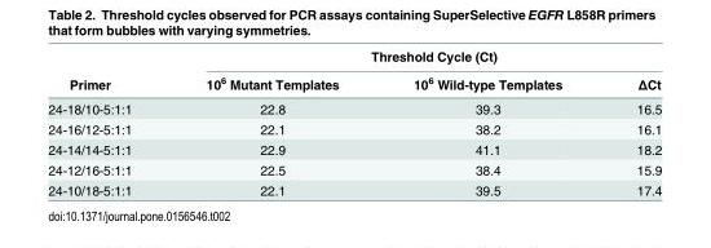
<table><thead><tr><td rowspan="2">Primer</td><td colspan="3">Threshold Cycle (Ct)</td></tr><tr><td>10<sup>6</sup> Mutant Templates</td><td>10<sup>6</sup> Wild-type Templates</td><td>ΔCt</td></tr></thead><tbody><tr><td>24-18/10-5:1:1</td><td>22.8</td><td>39.3</td><td>16.5</td></tr><tr><td>24-16/12-5:1:1</td><td>22.1</td><td>38.2</td><td>16.1</td></tr><tr><td>24-14/14-5:1:1</td><td>22.9</td><td>41.1</td><td>18.2</td></tr><tr><td>24-12/16-5:1:1</td><td>22.5</td><td>38.4</td><td>15.9</td></tr><tr><td>24-10/18-5:1:1</td><td>22.1</td><td>39.5</td><td>17.4</td></tr></tbody></table>